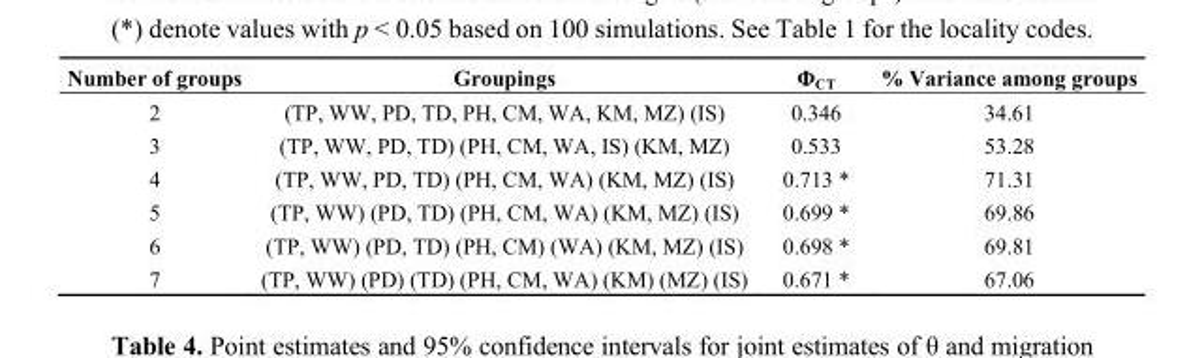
<table><thead><tr><td>Number of groups</td><td>Groupings</td><td>Φ<sub>CT</sub> %</td><td>Variance among groups</td></tr></thead><tbody><tr><td>2</td><td>(TP, WW, PD, TD, PH, CM, WA, KM, MZ) (IS)</td><td>0.346</td><td>34.61</td></tr><tr><td>3</td><td>(TP, WW, PD, TD) (PH, CM, WA, IS) (KM, MZ)</td><td>0.533</td><td>53.28</td></tr><tr><td>4</td><td>(TP, WW, PD, TD) (PH, CM, WA) (KM, MZ) (IS)</td><td>0.713 *</td><td>71.31</td></tr><tr><td>5</td><td>(TP, WW) (PD, TD) (PH, CM, WA) (KM, MZ) (IS)</td><td>0.699 *</td><td>69.86</td></tr><tr><td>6</td><td>(TP, WW) (PD, TD) (PH, CM) (WA) (KM, MZ) (IS)</td><td>0.698 *</td><td>69.81</td></tr><tr><td>7</td><td>(TP, WW) (PD) (TD) (PH, CM, WA) (KM) (MZ) (IS)</td><td>0.671 *</td><td>67.06</td></tr></tbody></table>